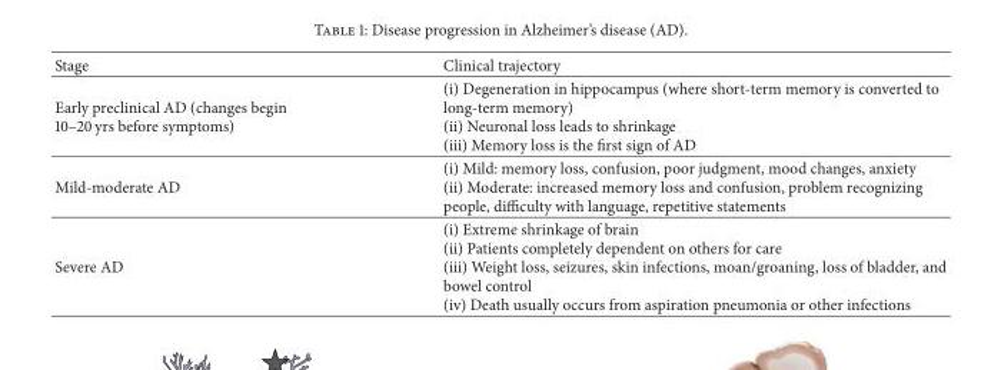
<table><thead><tr><td>Stage</td><td>Clinical trajectory</td></tr></thead><tbody><tr><td>Early preclinical AD (changes begin 10–20 yrs before symptoms)</td><td>(i) Degeneration in hippocampus (where short-term memory is converted to long-term memory) (ii) Neuronal loss leads to shrinkage (iii) Memory loss is the first sign of AD</td></tr><tr><td>Mild-moderate AD</td><td>(i) Mild: memory loss, confusion, poor judgment, mood changes, anxiety (ii) Moderate: increased memory loss and confusion, problem recognizing people, difficulty with language, repetitive statements</td></tr><tr><td>Severe AD</td><td>(i) Extreme shrinkage of brain (ii) Patients completely dependent on others for care (iii) Weight loss, seizures, skin infections, moan/groaning, loss of bladder, and bowel control (iv) Death usually occurs from aspiration pneumonia or other infections</td></tr></tbody></table>